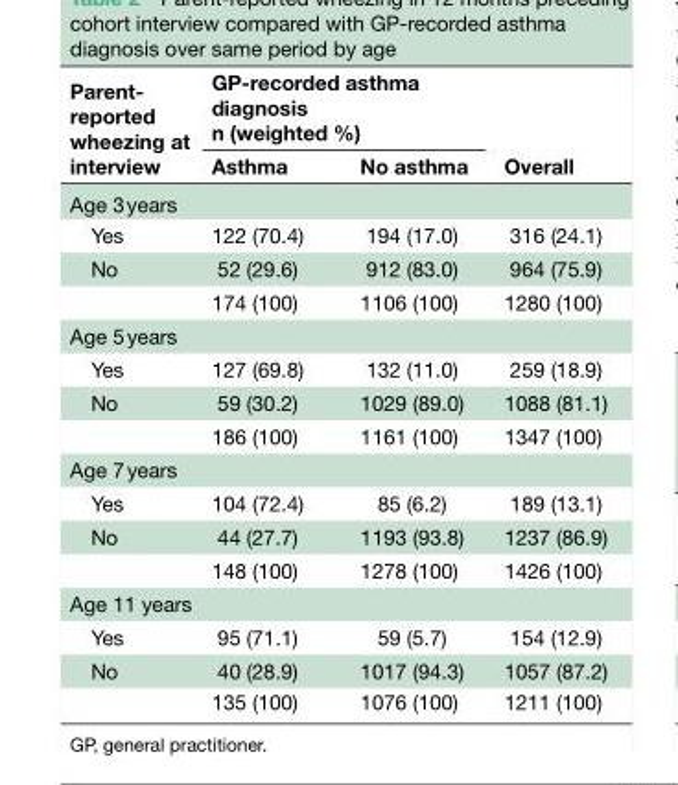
<table><thead><tr><td rowspan="2">Parent- reported wheezing at interview</td><td colspan="2">GP-recorded asthma diagnosis n (weighted %)</td><td rowspan="2">Overall</td></tr><tr><td>Asthma</td><td>No asthma</td></tr></thead><tbody><tr><td colspan="4">Age 3 years</td></tr><tr><td>Yes</td><td>122 (70.4)</td><td>194 (17.0)</td><td>316 (24.1)</td></tr><tr><td rowspan="2">No</td><td>52 (29.6)</td><td>912 (83.0)</td><td>964 (75.9)</td></tr><tr><td>174 (100)</td><td>1106 (100)</td><td>1280 (100)</td></tr><tr><td colspan="4">Age 5 years</td></tr><tr><td>Yes</td><td>127 (69.8)</td><td>132 (11.0)</td><td>259 (18.9)</td></tr><tr><td rowspan="2">No</td><td>59 (30.2)</td><td>1029 (89.0)</td><td>1088 (81.1)</td></tr><tr><td>186 (100)</td><td>1161 (100)</td><td>1347 (100)</td></tr><tr><td colspan="4">Age 7 years</td></tr><tr><td>Yes</td><td>104 (72.4)</td><td>85 (6.2)</td><td>189 (13.1)</td></tr><tr><td rowspan="2">No</td><td>44 (27.7)</td><td>1193 (93.8)</td><td>1237 (86.9)</td></tr><tr><td>148 (100)</td><td>1278 (100)</td><td>1426 (100)</td></tr><tr><td colspan="4">Age 11 years</td></tr><tr><td>Yes</td><td>95 (71.1)</td><td>59 (5.7)</td><td>154 (12.9)</td></tr><tr><td rowspan="2">No</td><td>40 (28.9)</td><td>1017 (94.3)</td><td>1057 (87.2)</td></tr><tr><td>135 (100)</td><td>1076 (100)</td><td>1211 (100)</td></tr></tbody></table>